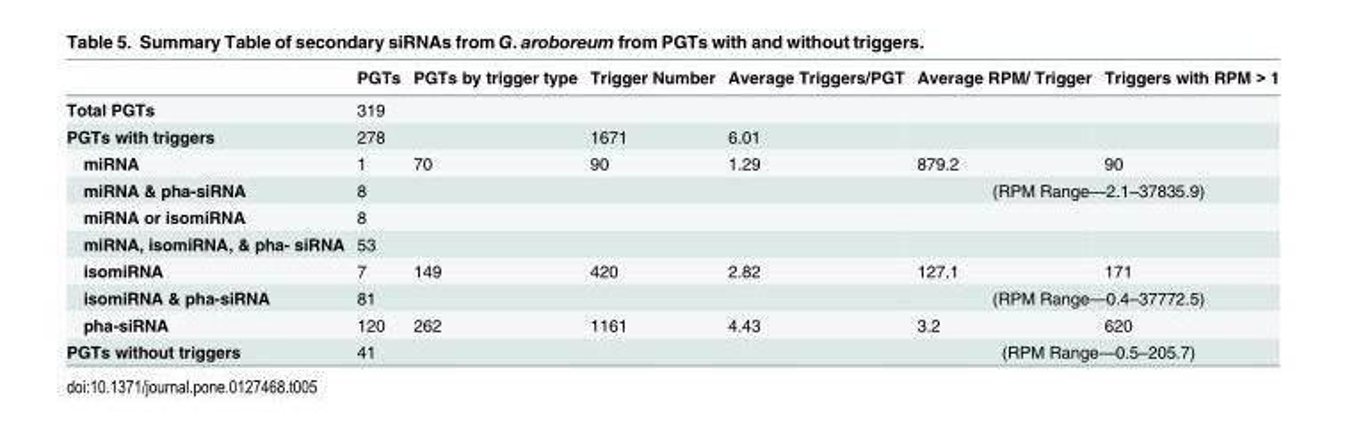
<table><thead><tr><td></td><td>PGTs</td><td>PGTs by trigger type</td><td>Trigger Number</td><td>Average Triggers/PGT</td><td>Average RPM/ Trigger</td><td>Triggers with RPM &gt; 1</td></tr></thead><tbody><tr><td>Total PGTs</td><td>319</td><td></td><td></td><td></td><td></td><td></td></tr><tr><td>PGTs with triggers</td><td>278</td><td></td><td>1671</td><td>6.01</td><td></td><td></td></tr><tr><td>miRNA</td><td>1</td><td>70</td><td>90</td><td>1.29</td><td>879.2</td><td>90</td></tr><tr><td>miRNA &amp; pha-siRNA</td><td>8</td><td></td><td></td><td></td><td colspan="2">(RPM Range—2.1–37835.9)</td></tr><tr><td>miRNA or isomiRNA</td><td>8</td><td></td><td></td><td></td><td></td><td></td></tr><tr><td>miRNA, isomiRNA, &amp; pha- siRNA</td><td>53</td><td></td><td></td><td></td><td></td><td></td></tr><tr><td>isomiRNA</td><td>7</td><td>149</td><td>420</td><td>2.82</td><td>127.1</td><td>171</td></tr><tr><td>isomiRNA &amp; pha-siRNA</td><td>81</td><td></td><td></td><td></td><td colspan="2">(RPM Range—0.4–37772.5)</td></tr><tr><td>pha-siRNA</td><td>120</td><td>262</td><td>1161</td><td>4.43</td><td>3.2</td><td>620</td></tr><tr><td>PGTs without triggers</td><td>41</td><td></td><td></td><td></td><td colspan="2">(RPM Range—0.5–205.7)</td></tr></tbody></table>